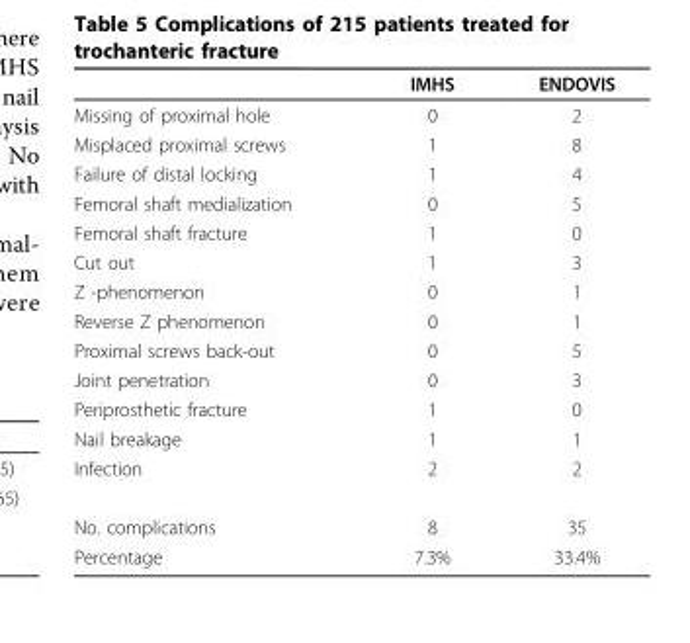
<table><thead><tr><td></td><td>IMHS</td><td>ENDOVIS</td></tr></thead><tbody><tr><td>Missing of proximal hole</td><td>0</td><td>2</td></tr><tr><td>Misplaced proximal screws</td><td>1</td><td>8</td></tr><tr><td>Failure of distal locking</td><td>1</td><td>4</td></tr><tr><td>Femoral shaft medialization</td><td>0</td><td>5</td></tr><tr><td>Femoral shaft fracture</td><td>1</td><td>0</td></tr><tr><td>Cut out</td><td>1</td><td>3</td></tr><tr><td>Z -phenomenon</td><td>0</td><td>1</td></tr><tr><td>Reverse Z phenomenon</td><td>0</td><td>1</td></tr><tr><td>Proximal screws back-out</td><td>0</td><td>5</td></tr><tr><td>Joint penetration</td><td>0</td><td>3</td></tr><tr><td>Periprosthetic fracture</td><td>1</td><td>0</td></tr><tr><td>Nail breakage</td><td>1</td><td>1</td></tr><tr><td>Infection</td><td>2</td><td>2</td></tr><tr><td>No. complications</td><td>8</td><td>35</td></tr><tr><td>Percentage</td><td>7.3%</td><td>33.4%</td></tr></tbody></table>